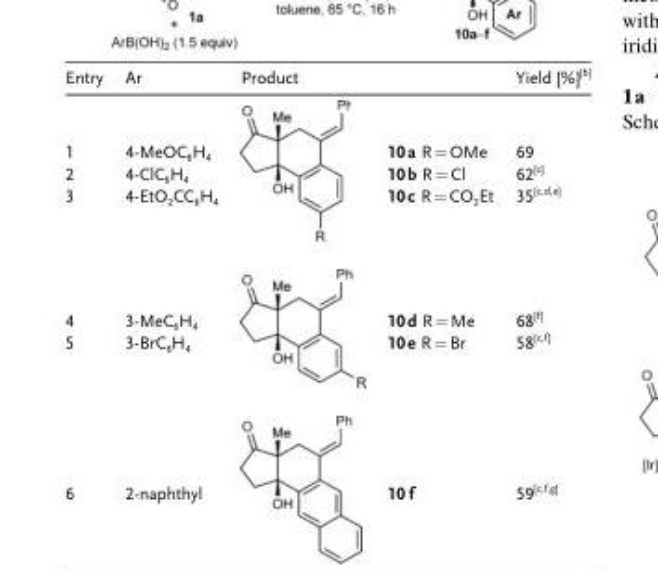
<table><thead><tr><td>Entry</td><td>Ar</td><td>Product</td><td></td><td>Yield [%][b]</td></tr></thead><tbody><tr><td>1 2 3</td><td>4-MeOC<sub>6</sub>H<sub>4</sub> 4-ClC<sub>6</sub>H<sub>4</sub> 4-EtO<sub>2</sub>CC<sub>6</sub>H<sub>4</sub></td><td></td><td>10a R=OMe 10b R=Cl 10c R=CO<sub>2</sub>Et</td><td>69 62[c] 35[c,<sup>d</sup>,e]</td></tr><tr><td>4 5</td><td>3-MeC<sub>6</sub>H<sub>4</sub> 3-BrC<sub>6</sub>H<sub>4</sub></td><td></td><td>10d R=Me 10e R=Br</td><td>68[f] 58[c,f]</td></tr><tr><td>6</td><td>2-naphthyl</td><td></td><td>10 f</td><td>59[c,<sup>f</sup>,g]</td></tr></tbody></table>